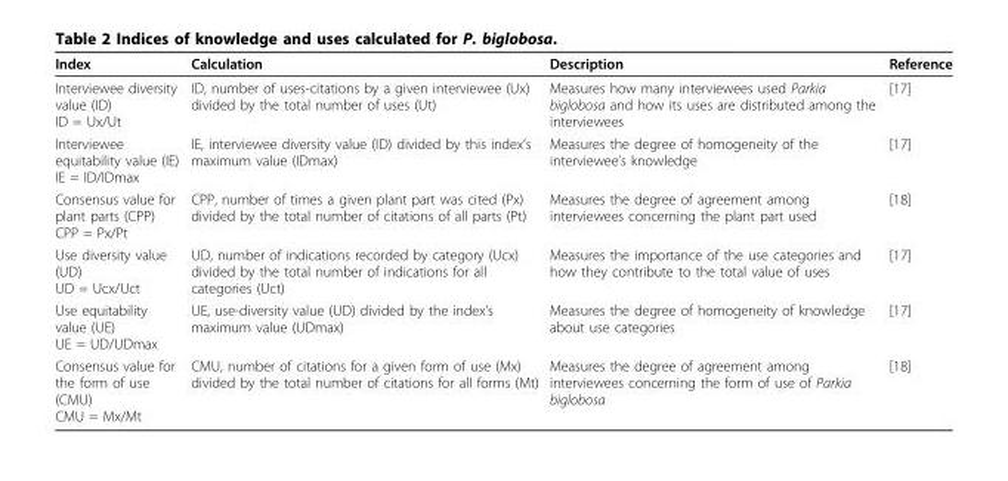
<table><thead><tr><td>Index</td><td>Calculation</td><td>Description</td><td>Reference</td></tr></thead><tbody><tr><td>Interviewee diversity value (ID) ID = Ux/Ut</td><td>ID, number of uses-citations by a given interviewee (Ux) divided by the total number of uses (Ut)</td><td>Measures how many interviewees used Parkia biglobosa and how its uses are distributed among the interviewees</td><td>[17]</td></tr><tr><td>Interviewee equitability value (IE) IE = ID/IDmax</td><td>IE, interviewee diversity value (ID) divided by this index’s maximum value (IDmax)</td><td>Measures the degree of homogeneity of the interviewee’s knowledge</td><td>[17]</td></tr><tr><td>Consensus value for plant parts (CPP) CPP = Px/Pt</td><td>CPP, number of times a given plant part was cited (Px) divided by the total number of citations of all parts (Pt)</td><td>Measures the degree of agreement among interviewees concerning the plant part used</td><td>[18]</td></tr><tr><td>Use diversity value (UD) UD = Ucx/Uct</td><td>UD, number of indications recorded by category (Ucx) divided by the total number of indications for all categories (Uct)</td><td>Measures the importance of the use categories and how they contribute to the total value of uses</td><td>[17]</td></tr><tr><td>Use equitability value (UE) UE = UD/UDmax</td><td>UE, use-diversity value (UD) divided by the index’s maximum value (UDmax)</td><td>Measures the degree of homogeneity of knowledge about use categories</td><td>[17]</td></tr><tr><td>Consensus value for the form of use (CMU) CMU = Mx/Mt</td><td>CMU, number of citations for a given form of use (Mx) divided by the total number of citations for all forms (Mt)</td><td>Measures the degree of agreement among interviewees concerning the form of use of Parkia biglobosa</td><td>[18]</td></tr></tbody></table>